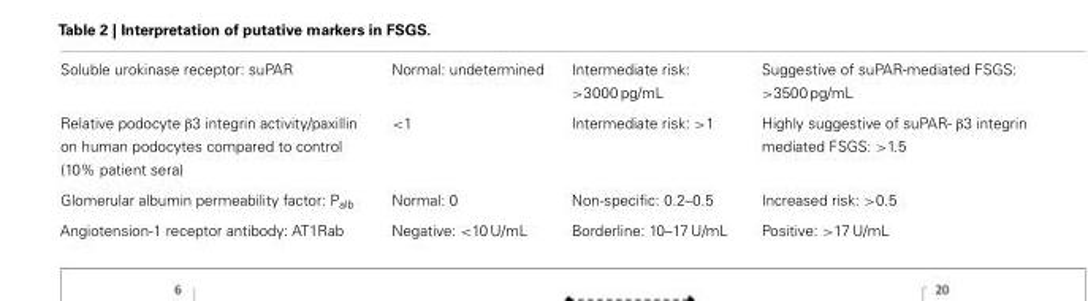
<table><tbody><tr><td>Soluble urokinase receptor: suPAR</td><td>Normal: undetermined</td><td>Intermediate risk: &gt;3000 pg/mL</td><td>Suggestive of suPAR-mediated FSGS: &gt;3500 pg/mL</td></tr><tr><td>Relative podocyte β3 integrin activity/paxillin on human podocytes compared to control (10% patient sera)</td><td>&lt;1</td><td>Intermediate risk: &gt;1</td><td>Highly suggestive of suPAR- β3 integrin mediated FSGS: &gt;1.5</td></tr><tr><td>Glomerular albumin permeability factor: P<sub>alb</sub></td><td>Normal: 0</td><td>Non-specific: 0.2–0.5</td><td>Increased risk: &gt;0.5</td></tr><tr><td>Angiotension-1 receptor antibody: AT1Rab</td><td>Negative: &lt;10 U/mL</td><td>Borderline: 10–17 U/mL</td><td>Positive: &gt;17 U/mL</td></tr></tbody></table>